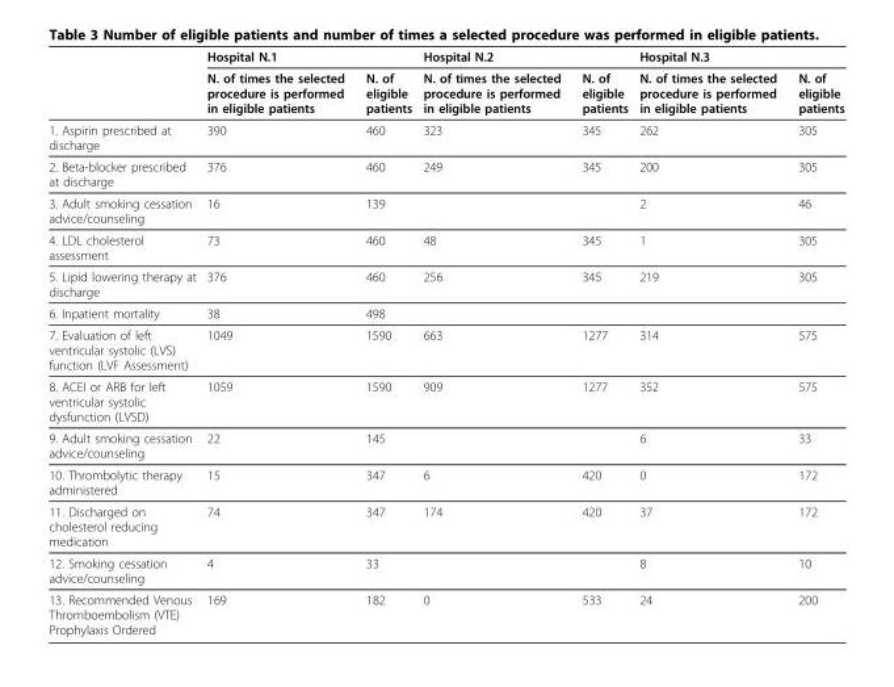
<table><thead><tr><td rowspan="2"></td><td colspan="2">Hospital N.1</td><td colspan="2">Hospital N.2</td><td colspan="2">Hospital N.3</td></tr><tr><td>N. of times the selected procedure is performed in eligible patients</td><td>N. of eligible patients</td><td>N. of times the selected procedure is performed in eligible patients</td><td>N. of eligible patients</td><td>N. of times the selected procedure is performed in eligible patients</td><td>N. of eligible patients</td></tr></thead><tbody><tr><td>1. Aspirin prescribed at discharge</td><td>390</td><td>460</td><td>323</td><td>345</td><td>262</td><td>305</td></tr><tr><td>2. Beta-blocker prescribed at discharge</td><td>376</td><td>460</td><td>249</td><td>345</td><td>200</td><td>305</td></tr><tr><td>3. Adult smoking cessation advice/counseling</td><td>16</td><td>139</td><td></td><td></td><td>2</td><td>46</td></tr><tr><td>4. LDL cholesterol assessment</td><td>73</td><td>460</td><td>48</td><td>345</td><td>1</td><td>305</td></tr><tr><td>5. Lipid lowering therapy at discharge</td><td>376</td><td>460</td><td>256</td><td>345</td><td>219</td><td>305</td></tr><tr><td>6. Inpatient mortality</td><td>38</td><td>498</td><td></td><td></td><td></td><td></td></tr><tr><td>7. Evaluation of left ventricular systolic (LVS) function (LVF Assessment)</td><td>1049</td><td>1590</td><td>663</td><td>1277</td><td>314</td><td>575</td></tr><tr><td>8. ACEI or ARB for left ventricular systolic dysfunction (LVSD)</td><td>1059</td><td>1590</td><td>909</td><td>1277</td><td>352</td><td>575</td></tr><tr><td>9. Adult smoking cessation advice/counseling</td><td>22</td><td>145</td><td></td><td></td><td>6</td><td>33</td></tr><tr><td>10. Thrombolytic therapy administered</td><td>15</td><td>347</td><td>6</td><td>420</td><td>0</td><td>172</td></tr><tr><td>11. Discharged on cholesterol reducing medication</td><td>74</td><td>347</td><td>174</td><td>420</td><td>37</td><td>172</td></tr><tr><td>12. Smoking cessation advice/counseling</td><td>4</td><td>33</td><td></td><td></td><td>8</td><td>10</td></tr><tr><td>13. Recommended Venous Thromboembolism (VTE) Prophylaxis Ordered</td><td>169</td><td>182</td><td>0</td><td>533</td><td>24</td><td>200</td></tr></tbody></table>